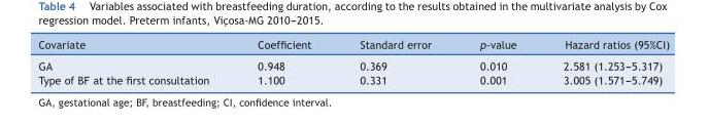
<table><thead><tr><td>Covariate</td><td>Coefficient</td><td>Standard error</td><td>p-value</td><td>Hazard ratios (95%CI)</td></tr></thead><tbody><tr><td>GA</td><td>0.948</td><td>0.369</td><td>0.010</td><td>2.581 (1.253---5.317)</td></tr><tr><td>Type of BF at the first consultation</td><td>1.100</td><td>0.331</td><td>0.001</td><td>3.005 (1.571---5.749)</td></tr></tbody></table>